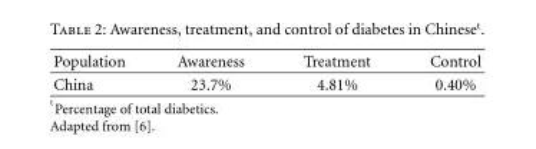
<table><thead><tr><td>Population</td><td>Awareness</td><td>Treatment</td><td>Control</td></tr></thead><tbody><tr><td>China</td><td>23.7%</td><td>4.81%</td><td>0.40%</td></tr></tbody></table>